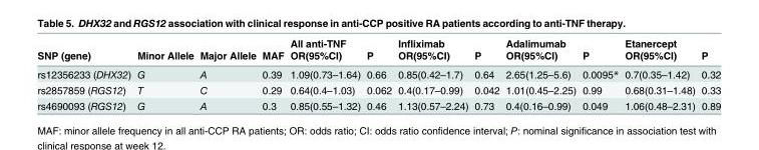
<table><thead><tr><td rowspan="2">SNP (gene)</td><td rowspan="2">Minor Allele</td><td rowspan="2">Major Allele</td><td rowspan="2">MAF</td><td rowspan="2">All anti-TNF OR(95%CI)</td><td rowspan="2">P</td><td rowspan="2">Infliximab OR(95%CI)</td><td rowspan="2">P</td><td rowspan="2">Adalimumab OR(95%CI)</td><td rowspan="2">P</td><td rowspan="2">Etanercept OR(95%CI)</td><td rowspan="2">P</td></tr><tr></tr></thead><tbody><tr><td>rs12356233 (DHX32)</td><td>G</td><td>A</td><td>0.39</td><td>1.09(0.73–1.64)</td><td>0.66</td><td>0.85(0.42–1.7)</td><td>0.64</td><td>2.65(1.25–5.6)</td><td>0.0095*</td><td>0.7(0.35–1.42)</td><td>0.32</td></tr><tr><td>rs2857859 (RGS12)</td><td>T</td><td>C</td><td>0.29</td><td>0.64(0.4–1.03)</td><td>0.062</td><td>0.4(0.17–0.99)</td><td>0.042</td><td>1.01(0.45–2.25)</td><td>0.99</td><td>0.68(0.31–1.48)</td><td>0.33</td></tr><tr><td>rs4690093 (RGS12)</td><td>G</td><td>A</td><td>0.3</td><td>0.85(0.55–1.32)</td><td>0.46</td><td>1.13(0.57–2.24)</td><td>0.73</td><td>0.4(0.16–0.99)</td><td>0.049</td><td>1.06(0.48–2.31)</td><td>0.89</td></tr></tbody></table>